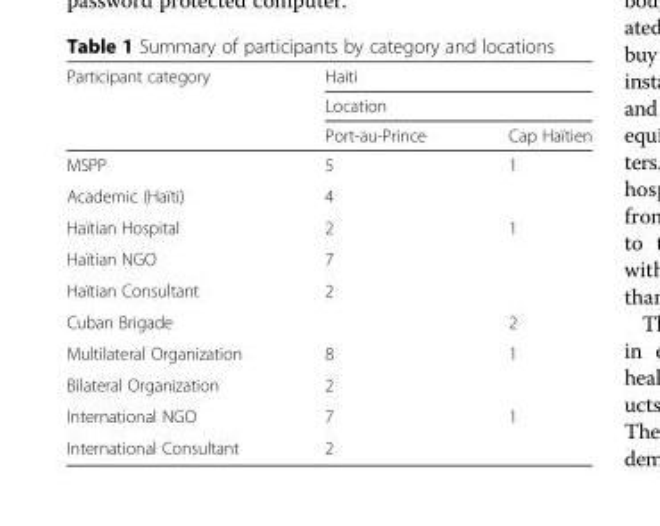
<table><thead><tr><td rowspan="3">Participant category</td><td rowspan="2" colspan="2">Haiti Location</td></tr><tr></tr><tr><td>Port-au-Prince</td><td>Cap Haïtien</td></tr></thead><tbody><tr><td>MSPP</td><td>5</td><td>1</td></tr><tr><td>Academic (Haïti)</td><td>4</td><td></td></tr><tr><td>Haïtian Hospital</td><td>2</td><td>1</td></tr><tr><td>Haïtian NGO</td><td>7</td><td></td></tr><tr><td>Haïtian Consultant</td><td>2</td><td></td></tr><tr><td>Cuban Brigade</td><td></td><td>2</td></tr><tr><td>Multilateral Organization</td><td>8</td><td>1</td></tr><tr><td>Bilateral Organization</td><td>2</td><td></td></tr><tr><td>International NGO</td><td>7</td><td>1</td></tr><tr><td>International Consultant</td><td>2</td><td></td></tr></tbody></table>